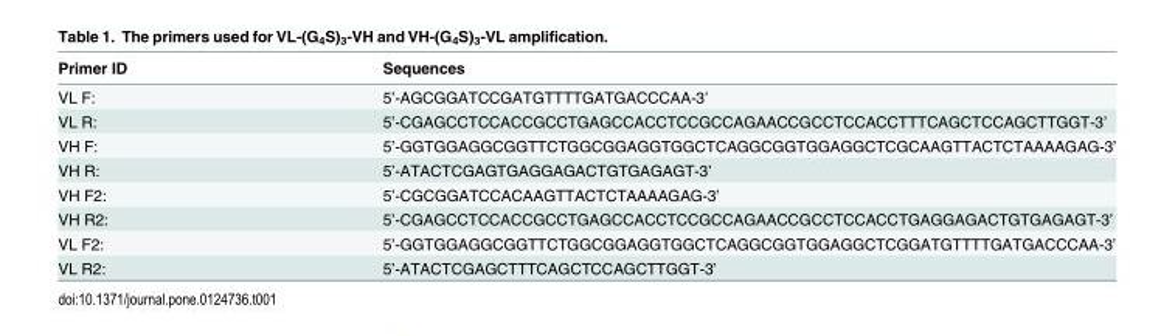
<table><thead><tr><td>Primer ID</td><td>Sequences</td></tr></thead><tbody><tr><td>VL F:</td><td>5’-AGCGGATCCGATGTTTTGATGACCCAA-3’</td></tr><tr><td>VL R:</td><td>5’-CGAGCCTCCACCGCCTGAGCCACCTCCGCCAGAACCGCCTCCACCTTTCAGCTCCAGCTTGGT-3’</td></tr><tr><td>VH F:</td><td>5’-GGTGGAGGCGGTTCTGGCGGAGGTGGCTCAGGCGGTGGAGGCTCGCAAGTTACTCTAAAAGAG-3’</td></tr><tr><td>VH R:</td><td>5’-ATACTCGAGTGAGGAGACTGTGAGAGT-3’</td></tr><tr><td>VH F2:</td><td>5’-CGCGGATCCACAAGTTACTCTAAAAGAG-3’</td></tr><tr><td>VH R2:</td><td>5’-CGAGCCTCCACCGCCTGAGCCACCTCCGCCAGAACCGCCTCCACCTGAGGAGACTGTGAGAGT-3’</td></tr><tr><td>VL F2:</td><td>5’-GGTGGAGGCGGTTCTGGCGGAGGTGGCTCAGGCGGTGGAGGCTCGGATGTTTTGATGACCCAA-3’</td></tr><tr><td>VL R2:</td><td>5’-ATACTCGAGCTTTCAGCTCCAGCTTGGT-3’</td></tr></tbody></table>